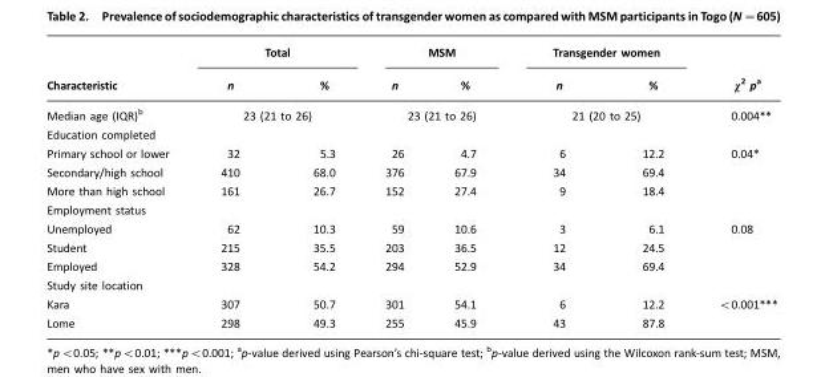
<table><thead><tr><td rowspan="2">Characteristic</td><td colspan="2">Total</td><td colspan="2">MSM</td><td colspan="2">Transgender women</td><td rowspan="2">χ<sup>2</sup> p<sup>a</sup></td></tr><tr><td>n</td><td>%</td><td>n</td><td>%</td><td>n</td><td>%</td></tr></thead><tbody><tr><td>Median age (IQR)<sup>b</sup></td><td colspan="2">23 (21 to 26)</td><td colspan="2">23 (21 to 26)</td><td colspan="2">21 (20 to 25)</td><td>0.004**</td></tr><tr><td colspan="8">Education completed</td></tr><tr><td>Primary school or lower</td><td>32</td><td>5.3</td><td>26</td><td>4.7</td><td>6</td><td>12.2</td><td>0.04*</td></tr><tr><td>Secondary/high school</td><td>410</td><td>68.0</td><td>376</td><td>67.9</td><td>34</td><td>69.4</td><td></td></tr><tr><td>More than high school</td><td>161</td><td>26.7</td><td>152</td><td>27.4</td><td>9</td><td>18.4</td><td></td></tr><tr><td colspan="8">Employment status</td></tr><tr><td>Unemployed</td><td>62</td><td>10.3</td><td>59</td><td>10.6</td><td>3</td><td>6.1</td><td>0.08</td></tr><tr><td>Student</td><td>215</td><td>35.5</td><td>203</td><td>36.5</td><td>12</td><td>24.5</td><td></td></tr><tr><td>Employed</td><td>328</td><td>54.2</td><td>294</td><td>52.9</td><td>34</td><td>69.4</td><td></td></tr><tr><td colspan="8">Study site location</td></tr><tr><td>Kara</td><td>307</td><td>50.7</td><td>301</td><td>54.1</td><td>6</td><td>12.2</td><td>&lt;0.001***</td></tr><tr><td>Lome</td><td>298</td><td>49.3</td><td>255</td><td>45.9</td><td>43</td><td>87.8</td><td></td></tr></tbody></table>